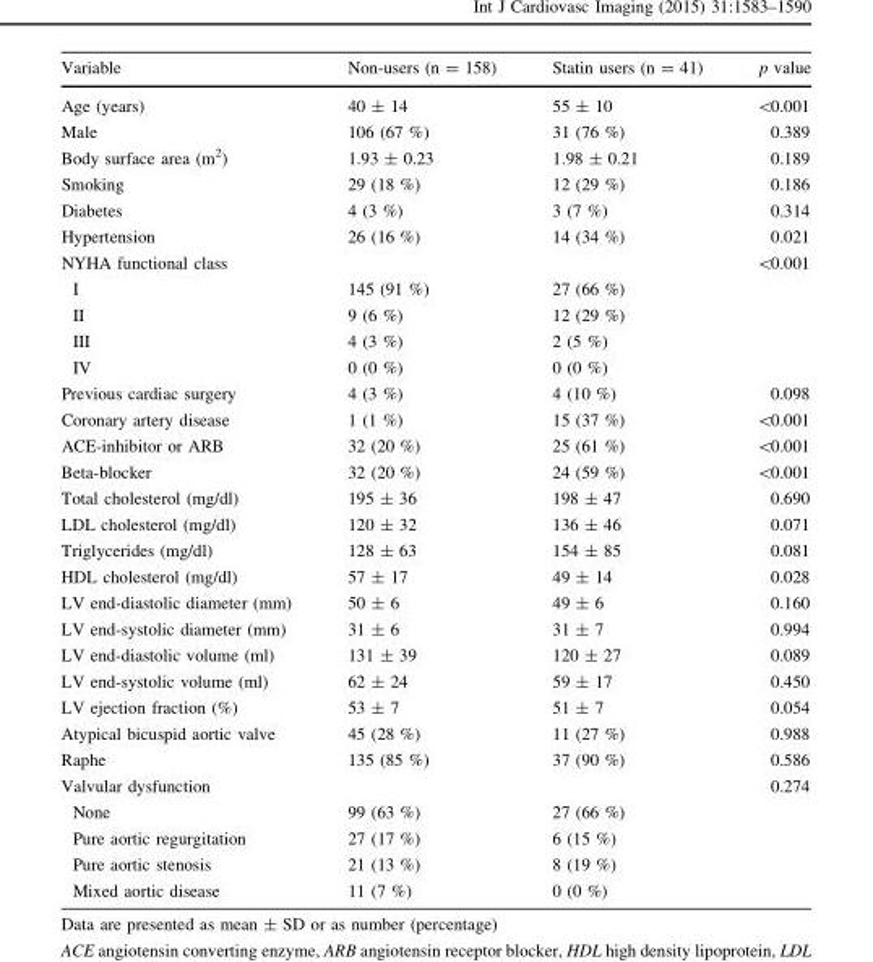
<table><thead><tr><td>Variable</td><td>Non-users (n = 158)</td><td>Statin users (n = 41)</td><td>p value</td></tr></thead><tbody><tr><td>Age (years)</td><td>40 ± 14</td><td>55 ± 10</td><td>&lt;0.001</td></tr><tr><td>Male</td><td>106 (67 %)</td><td>31 (76 %)</td><td>0.389</td></tr><tr><td>Body surface area (m<sup>2</sup>)</td><td>1.93 ± 0.23</td><td>1.98 ± 0.21</td><td>0.189</td></tr><tr><td>Smoking</td><td>29 (18 %)</td><td>12 (29 %)</td><td>0.186</td></tr><tr><td>Diabetes</td><td>4 (3 %)</td><td>3 (7 %)</td><td>0.314</td></tr><tr><td>Hypertension</td><td>26 (16 %)</td><td>14 (34 %)</td><td>0.021</td></tr><tr><td>NYHA functional class</td><td></td><td></td><td>&lt;0.001</td></tr><tr><td>I</td><td>145 (91 %)</td><td>27 (66 %)</td><td></td></tr><tr><td>II</td><td>9 (6 %)</td><td>12 (29 %)</td><td></td></tr><tr><td>III</td><td>4 (3 %)</td><td>2 (5 %)</td><td></td></tr><tr><td>IV</td><td>0 (0 %)</td><td>0 (0 %)</td><td></td></tr><tr><td>Previous cardiac surgery</td><td>4 (3 %)</td><td>4 (10 %)</td><td>0.098</td></tr><tr><td>Coronary artery disease</td><td>1 (1 %)</td><td>15 (37 %)</td><td>&lt;0.001</td></tr><tr><td>ACE-inhibitor or ARB</td><td>32 (20 %)</td><td>25 (61 %)</td><td>&lt;0.001</td></tr><tr><td>Beta-blocker</td><td>32 (20 %)</td><td>24 (59 %)</td><td>&lt;0.001</td></tr><tr><td>Total cholesterol (mg/dl)</td><td>195 ± 36</td><td>198 ± 47</td><td>0.690</td></tr><tr><td>LDL cholesterol (mg/dl)</td><td>120 ± 32</td><td>136 ± 46</td><td>0.071</td></tr><tr><td>Triglycerides (mg/dl)</td><td>128 ± 63</td><td>154 ± 85</td><td>0.081</td></tr><tr><td>HDL cholesterol (mg/dl)</td><td>57 ± 17</td><td>49 ± 14</td><td>0.028</td></tr><tr><td>LV end-diastolic diameter (mm)</td><td>50 ± 6</td><td>49 ± 6</td><td>0.160</td></tr><tr><td>LV end-systolic diameter (mm)</td><td>31 ± 6</td><td>31 ± 7</td><td>0.994</td></tr><tr><td>LV end-diastolic volume (ml)</td><td>131 ± 39</td><td>120 ± 27</td><td>0.089</td></tr><tr><td>LV end-systolic volume (ml)</td><td>62 ± 24</td><td>59 ± 17</td><td>0.450</td></tr><tr><td>LV ejection fraction (%)</td><td>53 ± 7</td><td>51 ± 7</td><td>0.054</td></tr><tr><td>Atypical bicuspid aortic valve</td><td>45 (28 %)</td><td>11 (27 %)</td><td>0.988</td></tr><tr><td>Raphe</td><td>135 (85 %)</td><td>37 (90 %)</td><td>0.586</td></tr><tr><td>Valvular dysfunction</td><td></td><td></td><td>0.274</td></tr><tr><td>None</td><td>99 (63 %)</td><td>27 (66 %)</td><td></td></tr><tr><td>Pure aortic regurgitation</td><td>27 (17 %)</td><td>6 (15 %)</td><td></td></tr><tr><td>Pure aortic stenosis</td><td>21 (13 %)</td><td>8 (19 %)</td><td></td></tr><tr><td>Mixed aortic disease</td><td>11 (7 %)</td><td>0 (0 %)</td><td></td></tr></tbody></table>